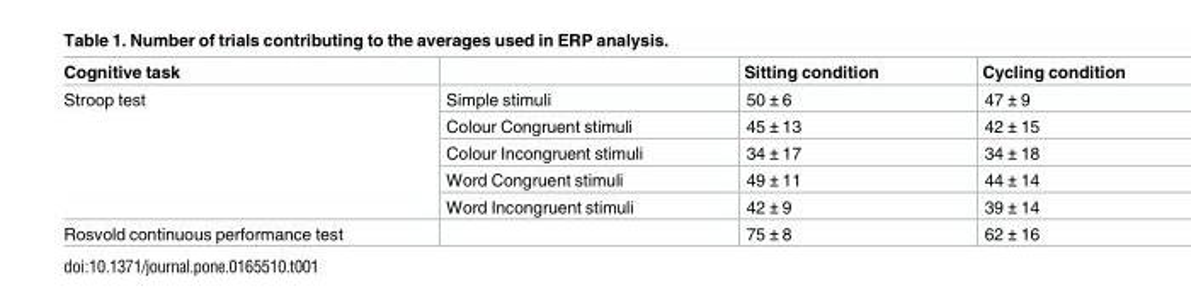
<table><thead><tr><td>Cognitive task</td><td></td><td>Sitting condition</td><td>Cycling condition</td></tr></thead><tbody><tr><td rowspan="5">Stroop test</td><td>Simple stimuli</td><td>50 ± 6</td><td>47 ± 9</td></tr><tr><td>Colour Congruent stimuli</td><td>45 ± 13</td><td>42 ± 15</td></tr><tr><td>Colour Incongruent stimuli</td><td>34 ± 17</td><td>34 ± 18</td></tr><tr><td>Word Congruent stimuli</td><td>49 ± 11</td><td>44 ± 14</td></tr><tr><td>Word Incongruent stimuli</td><td>42 ± 9</td><td>39 ± 14</td></tr><tr><td>Rosvold continuous performance test</td><td></td><td>75 ± 8</td><td>62 ± 16</td></tr></tbody></table>